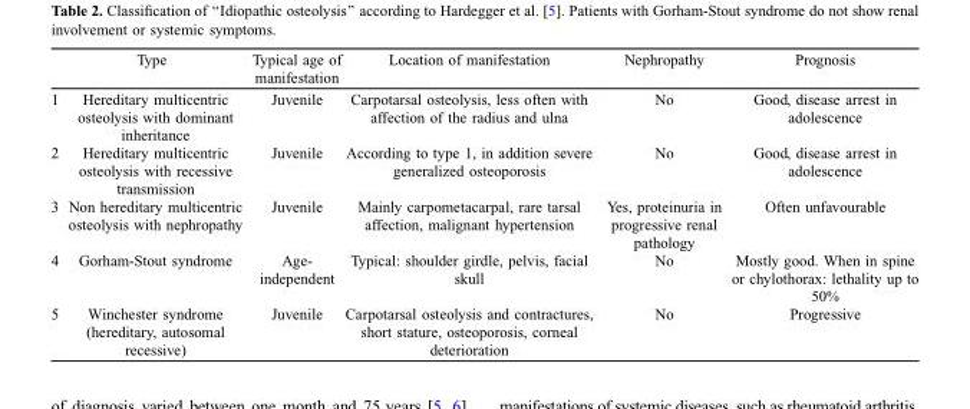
<table><thead><tr><td colspan="2">Type</td><td rowspan="2">Typical age of manifestation Juvenile</td><td rowspan="2">Location of manifestation Carpotarsal osteolysis, less often with affection of the radius and ulna</td><td rowspan="2">Nephropathy No</td><td rowspan="2">Prognosis Good, disease arrest in adolescence</td></tr><tr><td>1</td><td>Hereditary multicentric osteolysis with dominant inheritance</td></tr></thead><tbody><tr><td>2</td><td>Hereditary multicentric osteolysis with recessive transmission</td><td>Juvenile</td><td>According to type 1, in addition severe generalized osteoporosis</td><td>No</td><td>Good, disease arrest in adolescence</td></tr><tr><td>3</td><td>Non hereditary multicentric osteolysis with nephropathy</td><td>Juvenile</td><td>Mainly carpometacarpal, rare tarsal affection, malignant hypertension</td><td>Yes, proteinuria in progressive renal pathology</td><td>Often unfavourable</td></tr><tr><td>4</td><td>Gorham-Stout syndrome</td><td>Age- independent</td><td>Typical: shoulder girdle, pelvis, facial skull</td><td>No</td><td>Mostly good. When in spine or chylothorax: lethality up to 50%</td></tr><tr><td>5</td><td>Winchester syndrome (hereditary, autosomal recessive)</td><td>Juvenile</td><td>Carpotarsal osteolysis and contractures, short stature, osteoporosis, corneal deterioration</td><td>No</td><td>Progressive</td></tr></tbody></table>